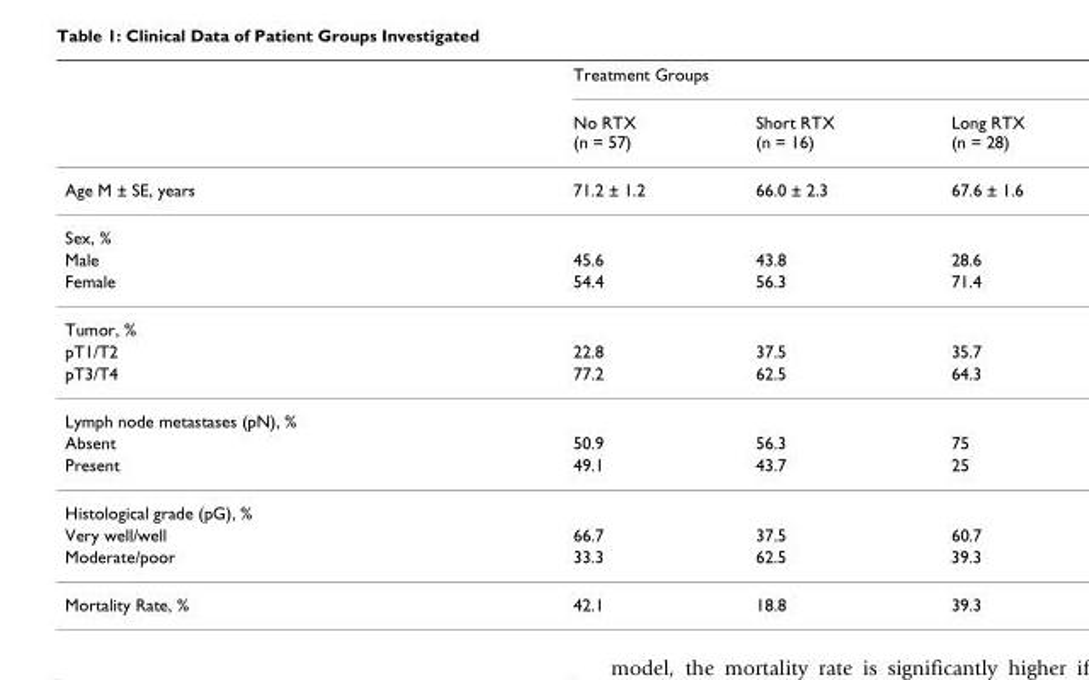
<table><thead><tr><td rowspan="2"></td><td colspan="3">Treatment Groups</td></tr><tr><td>No RTX (n = 57)</td><td>Short RTX (n = 16)</td><td>Long RTX (n = 28)</td></tr></thead><tbody><tr><td>Age M ± SE, years</td><td>71.2 ± 1.2</td><td>66.0 ± 2.3</td><td>67.6 ± 1.6</td></tr><tr><td colspan="4">Sex, %</td></tr><tr><td>Male</td><td>45.6</td><td>43.8</td><td>28.6</td></tr><tr><td>Female</td><td>54.4</td><td>56.3</td><td>71.4</td></tr><tr><td colspan="4">Tumor, %</td></tr><tr><td>pT1/T2</td><td>22.8</td><td>37.5</td><td>35.7</td></tr><tr><td>pT3/T4</td><td>77.2</td><td>62.5</td><td>64.3</td></tr><tr><td colspan="4">Lymph node metastases (pN), %</td></tr><tr><td>Absent</td><td>50.9</td><td>56.3</td><td>75</td></tr><tr><td>Present</td><td>49.1</td><td>43.7</td><td>25</td></tr><tr><td colspan="4">Histological grade (pG), %</td></tr><tr><td>Very well/well</td><td>66.7</td><td>37.5</td><td>60.7</td></tr><tr><td>Moderate/poor</td><td>33.3</td><td>62.5</td><td>39.3</td></tr><tr><td>Mortality Rate, %</td><td>42.1</td><td>18.8</td><td>39.3</td></tr></tbody></table>